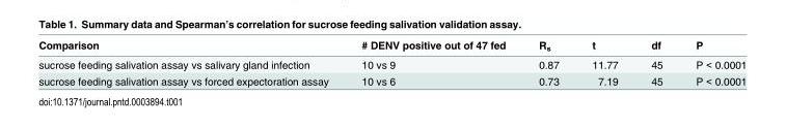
<table><thead><tr><td>Comparison</td><td># DENV positive out of 47 fed</td><td>R<sub>s</sub></td><td>t</td><td>df</td><td>P</td></tr></thead><tbody><tr><td>sucrose feeding salivation assay vs salivary gland infection</td><td>10 vs 9</td><td>0.87</td><td>11.77</td><td>45</td><td>P &lt; 0.0001</td></tr><tr><td>sucrose feeding salivation assay vs forced expectoration assay</td><td>10 vs 6</td><td>0.73</td><td>7.19</td><td>45</td><td>P &lt; 0.0001</td></tr></tbody></table>